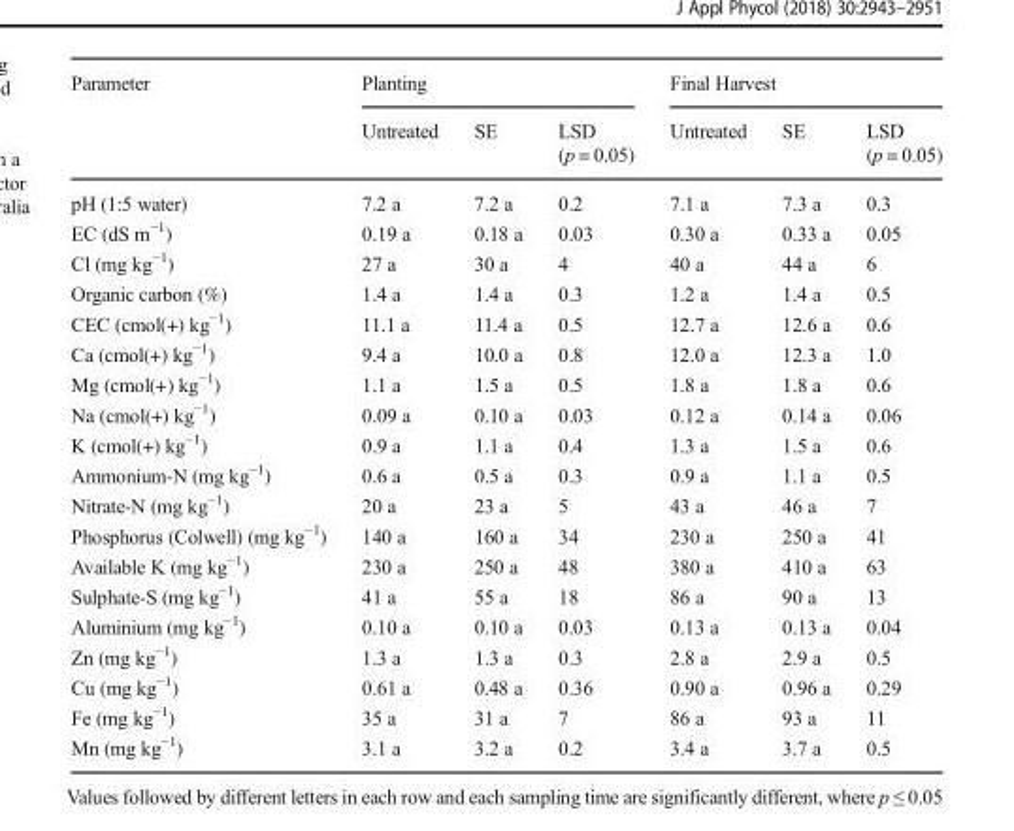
<table><thead><tr><td rowspan="2">Parameter</td><td colspan="3">Planting</td><td colspan="3">Final Harvest</td></tr><tr><td>Untreated</td><td>SE</td><td>LSD (p = 0.05)</td><td>Untreated</td><td>SE</td><td>LSD (p = 0.05)</td></tr></thead><tbody><tr><td>pH (1:5 water)</td><td>7.2 a</td><td>7.2 a</td><td>0.2</td><td>7.1 a</td><td>7.3 a</td><td>0.3</td></tr><tr><td>EC (dS m<sup>−1</sup>)</td><td>0.19 a</td><td>0.18 a</td><td>0.03</td><td>0.30 a</td><td>0.33 a</td><td>0.05</td></tr><tr><td>Cl (mg kg<sup>−1</sup>)</td><td>27 a</td><td>30 a</td><td>4</td><td>40 a</td><td>44 a</td><td>6</td></tr><tr><td>Organic carbon (%)</td><td>1.4 a</td><td>1.4 a</td><td>0.3</td><td>1.2 a</td><td>1.4 a</td><td>0.5</td></tr><tr><td>CEC (cmol(+) kg<sup>−1</sup>)</td><td>11.1 a</td><td>11.4 a</td><td>0.5</td><td>12.7 a</td><td>12.6 a</td><td>0.6</td></tr><tr><td>Ca (cmol(+) kg<sup>−1</sup>)</td><td>9.4 a</td><td>10.0 a</td><td>0.8</td><td>12.0 a</td><td>12.3 a</td><td>1.0</td></tr><tr><td>Mg (cmol(+) kg<sup>−1</sup>)</td><td>1.1 a</td><td>1.5 a</td><td>0.5</td><td>1.8 a</td><td>1.8 a</td><td>0.6</td></tr><tr><td>Na (cmol(+) kg<sup>−1</sup>)</td><td>0.09 a</td><td>0.10 a</td><td>0.03</td><td>0.12 a</td><td>0.14 a</td><td>0.06</td></tr><tr><td>K (cmol(+) kg<sup>−1</sup>)</td><td>0.9 a</td><td>1.1 a</td><td>0.4</td><td>1.3 a</td><td>1.5 a</td><td>0.6</td></tr><tr><td>Ammonium-N (mg kg<sup>−1</sup>)</td><td>0.6 a</td><td>0.5 a</td><td>0.3</td><td>0.9 a</td><td>1.1 a</td><td>0.5</td></tr><tr><td>Nitrate-N (mg kg<sup>−1</sup>)</td><td>20 a</td><td>23 a</td><td>5</td><td>43 a</td><td>46 a</td><td>7</td></tr><tr><td>Phosphorus (Colwell) (mg kg<sup>−1</sup>)</td><td>140 a</td><td>160 a</td><td>34</td><td>230 a</td><td>250 a</td><td>41</td></tr><tr><td>Available K (mg kg<sup>−1</sup>)</td><td>230 a</td><td>250 a</td><td>48</td><td>380 a</td><td>410 a</td><td>63</td></tr><tr><td>Sulphate-S (mg kg<sup>−1</sup>)</td><td>41 a</td><td>55 a</td><td>18</td><td>86 a</td><td>90 a</td><td>13</td></tr><tr><td>Aluminium (mg kg<sup>−1</sup>)</td><td>0.10 a</td><td>0.10 a</td><td>0.03</td><td>0.13 a</td><td>0.13 a</td><td>0.04</td></tr><tr><td>Zn (mg kg<sup>−1</sup>)</td><td>1.3 a</td><td>1.3 a</td><td>0.3</td><td>2.8 a</td><td>2.9 a</td><td>0.5</td></tr><tr><td>Cu (mg kg<sup>−1</sup>)</td><td>0.61 a</td><td>0.48 a</td><td>0.36</td><td>0.90 a</td><td>0.96 a</td><td>0.29</td></tr><tr><td>Fe (mg kg<sup>−1</sup>)</td><td>35 a</td><td>31 a</td><td>7</td><td>86 a</td><td>93 a</td><td>11</td></tr><tr><td>Mn (mg kg<sup>−1</sup>)</td><td>3.1 a</td><td>3.2 a</td><td>0.2</td><td>3.4 a</td><td>3.7 a</td><td>0.5</td></tr></tbody></table>